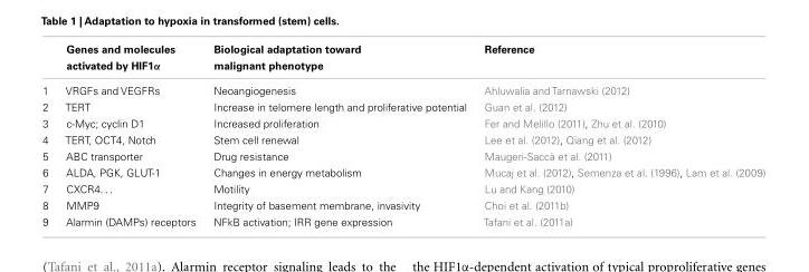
<table><thead><tr><td></td><td>Genes and molecules activated by HIF1α</td><td>Biological adaptation toward malignant phenotype</td><td>Reference</td></tr></thead><tbody><tr><td>1</td><td>VRGFs and VEGFRs</td><td>Neoangiogenesis</td><td>Ahluwalia and Tarnawski (2012)</td></tr><tr><td>2</td><td>TERT</td><td>Increase in telomere length and proliferative potential</td><td>Guan et al. (2012)</td></tr><tr><td>3</td><td>c-Myc; cyclin D1</td><td>Increased proliferation</td><td>Fer and Melillo (2011), Zhu et al. (2010)</td></tr><tr><td>4</td><td>TERT, OCT4, Notch</td><td>Stem cell renewal</td><td>Lee et al. (2012), Qiang et al. (2012)</td></tr><tr><td>5</td><td>ABC transporter</td><td>Drug resistance</td><td>Maugeri-Saccà et al. (2011)</td></tr><tr><td>6</td><td>ALDA, PGK, GLUT-1</td><td>Changes in energy metabolism</td><td>Mucaj et al. (2012), Semenza et al. (1996), Lam et al. (2009)</td></tr><tr><td>7</td><td>CXCR4. . .</td><td>Motility</td><td>Lu and Kang (2010)</td></tr><tr><td>8</td><td>MMP9</td><td>Integrity of basement membrane, invasivity</td><td>Choi et al. (2011b)</td></tr><tr><td>9</td><td>Alarmin (DAMPs) receptors</td><td>NFkB activation; IRR gene expression</td><td>Tafani et al. (2011a)</td></tr></tbody></table>